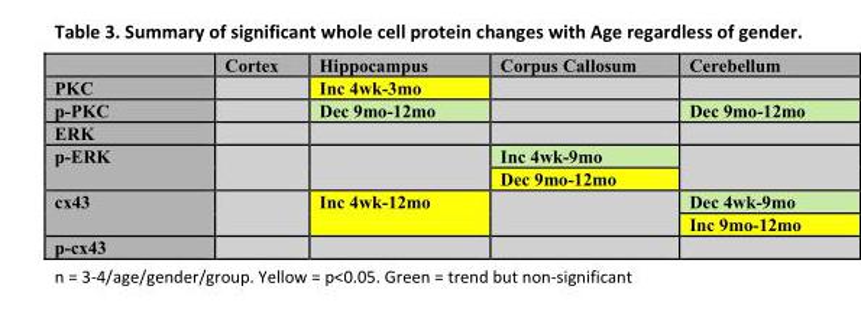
<table><thead><tr><td></td><td>Cortex</td><td>Hippocampus</td><td>Corpus Callosum</td><td>Cerebellum</td></tr></thead><tbody><tr><td>PKC</td><td></td><td>Inc 4wk-3mo</td><td></td><td></td></tr><tr><td>p-PKC</td><td></td><td>Dec 9mo-12mo</td><td></td><td>Dec 9mo-12mo</td></tr><tr><td colspan="5">ERK</td></tr><tr><td rowspan="2">p-ERK</td><td rowspan="2"></td><td rowspan="2"></td><td>Inc 4wk-9mo</td><td rowspan="2"></td></tr><tr><td>Dec 9mo-12mo</td></tr><tr><td rowspan="2">cx43</td><td rowspan="2"></td><td rowspan="2">Inc 4wk-12mo</td><td rowspan="2"></td><td>Dec 4wk-9mo</td></tr><tr><td>Inc 9mo-12mo</td></tr><tr><td>p-cx43</td><td></td><td></td><td></td><td></td></tr></tbody></table>